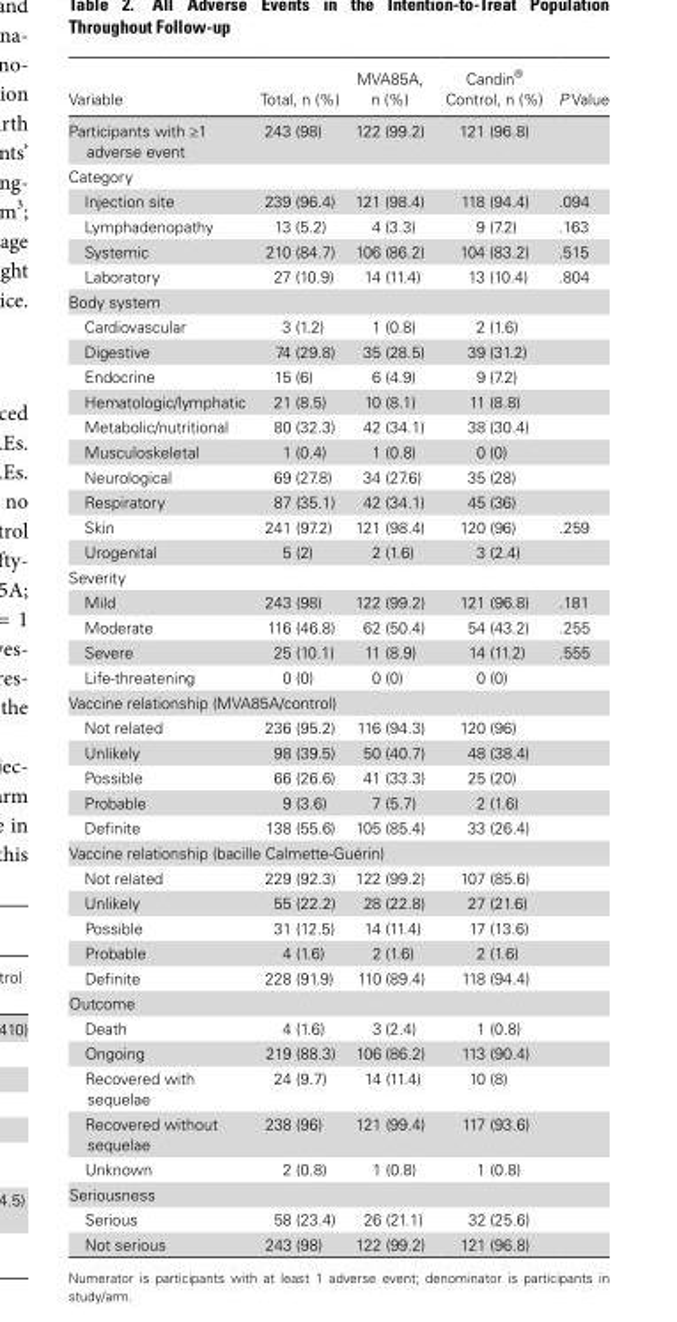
<table><thead><tr><td>Variable</td><td>Total, n (%)</td><td>MVA85A, n (%)</td><td>Candin<sup>®</sup> Control, n (%)</td><td>P Value</td></tr></thead><tbody><tr><td>Participants with ≥1 adverse event</td><td>243 (98)</td><td>122 (99.2)</td><td>121 (96.8)</td><td></td></tr><tr><td colspan="5">Category</td></tr><tr><td>Injection site</td><td>239 (96.4)</td><td>121 (98.4)</td><td>118 (94.4)</td><td>.094</td></tr><tr><td>Lymphadenopathy</td><td>13 (5.2)</td><td>4 (3.3)</td><td>9 (7.2)</td><td>.163</td></tr><tr><td>Systemic</td><td>210 (84.7)</td><td>106 (86.2)</td><td>104 (83.2)</td><td>.515</td></tr><tr><td>Laboratory</td><td>27 (10.9)</td><td>14 (11.4)</td><td>13 (10.4)</td><td>.804</td></tr><tr><td colspan="5">Body system</td></tr><tr><td>Cardiovascular</td><td>3 (1.2)</td><td>1 (0.8)</td><td>2 (1.6)</td><td></td></tr><tr><td>Digestive</td><td>74 (29.8)</td><td>35 (28.5)</td><td>39 (31.2)</td><td></td></tr><tr><td>Endocrine</td><td>15 (6)</td><td>6 (4.9)</td><td>9 (7.2)</td><td></td></tr><tr><td>Hematologic/lymphatic</td><td>21 (8.5)</td><td>10 (8.1)</td><td>11 (8.8)</td><td></td></tr><tr><td>Metabolic/nutritional</td><td>80 (32.3)</td><td>42 (34.1)</td><td>38 (30.4)</td><td></td></tr><tr><td>Musculoskeletal</td><td>1 (0.4)</td><td>1 (0.8)</td><td>0 (0)</td><td></td></tr><tr><td>Neurological</td><td>69 (27.8)</td><td>34 (27.6)</td><td>35 (28)</td><td></td></tr><tr><td>Respiratory</td><td>87 (35.1)</td><td>42 (34.1)</td><td>45 (36)</td><td></td></tr><tr><td>Skin</td><td>241 (97.2)</td><td>121 (98.4)</td><td>120 (96)</td><td>.259</td></tr><tr><td>Urogenital</td><td>5 (2)</td><td>2 (1.6)</td><td>3 (2.4)</td><td></td></tr><tr><td colspan="5">Severity</td></tr><tr><td>Mild</td><td>243 (98)</td><td>122 (99.2)</td><td>121 (96.8)</td><td>.181</td></tr><tr><td>Moderate</td><td>116 (46.8)</td><td>62 (50.4)</td><td>54 (43.2)</td><td>.255</td></tr><tr><td>Severe</td><td>25 (10.1)</td><td>11 (8.9)</td><td>14 (11.2)</td><td>.555</td></tr><tr><td>Life-threatening</td><td>0 (0)</td><td>0 (0)</td><td>0 (0)</td><td></td></tr><tr><td colspan="5">Vaccine relationship (MVA85A/control)</td></tr><tr><td>Not related</td><td>236 (95.2)</td><td>116 (94.3)</td><td>120 (96)</td><td></td></tr><tr><td>Unlikely</td><td>98 (39.5)</td><td>50 (40.7)</td><td>48 (38.4)</td><td></td></tr><tr><td>Possible</td><td>66 (26.6)</td><td>41 (33.3)</td><td>25 (20)</td><td></td></tr><tr><td>Probable</td><td>9 (3.6)</td><td>7 (5.7)</td><td>2 (1.6)</td><td></td></tr><tr><td>Definite</td><td>138 (55.6)</td><td>105 (85.4)</td><td>33 (26.4)</td><td></td></tr><tr><td colspan="5">Vaccine relationship (bacille Calmette-Guérin)</td></tr><tr><td>Not related</td><td>229 (92.3)</td><td>122 (99.2)</td><td>107 (85.6)</td><td></td></tr><tr><td>Unlikely</td><td>55 (22.2)</td><td>28 (22.8)</td><td>27 (21.6)</td><td></td></tr><tr><td>Possible</td><td>31 (12.5)</td><td>14 (11.4)</td><td>17 (13.6)</td><td></td></tr><tr><td>Probable</td><td>4 (1.6)</td><td>2 (1.6)</td><td>2 (1.6)</td><td></td></tr><tr><td>Definite</td><td>228 (91.9)</td><td>110 (89.4)</td><td>118 (94.4)</td><td></td></tr><tr><td colspan="5">Outcome</td></tr><tr><td>Death</td><td>4 (1.6)</td><td>3 (2.4)</td><td>1 (0.8)</td><td></td></tr><tr><td>Ongoing</td><td>219 (88.3)</td><td>106 (86.2)</td><td>113 (90.4)</td><td></td></tr><tr><td>Recovered with sequelae</td><td>24 (9.7)</td><td>14 (11.4)</td><td>10 (8)</td><td></td></tr><tr><td>Recovered without sequelae</td><td>238 (96)</td><td>121 (99.4)</td><td>117 (93.6)</td><td></td></tr><tr><td>Unknown</td><td>2 (0.8)</td><td>1 (0.8)</td><td>1 (0.8)</td><td></td></tr><tr><td colspan="5">Seriousness</td></tr><tr><td>Serious</td><td>58 (23.4)</td><td>26 (21.1)</td><td>32 (25.6)</td><td></td></tr><tr><td>Not serious</td><td>243 (98)</td><td>122 (99.2)</td><td>121 (96.8)</td><td></td></tr></tbody></table>